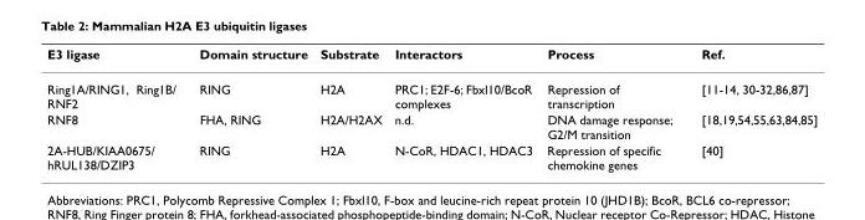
<table><thead><tr><td>E3 ligase</td><td>Domain structure</td><td>Substrate</td><td>Interactors</td><td>Process</td><td>Ref.</td></tr></thead><tbody><tr><td>Ring1A/RING1, Ring1B/ RNF2</td><td>RING</td><td>H2A</td><td>PRC1; E2F-6; Fbxl10/BcoR complexes</td><td>Repression of transcription</td><td>[11-14, 30-32,86,87]</td></tr><tr><td>RNF8</td><td>FHA, RING</td><td>H2A/H2AX</td><td>n.d.</td><td>DNA damage response; G2/M transition</td><td>[18,19,54,55,63,84,85]</td></tr><tr><td>2A-HUB/KIAA0675/ hRUL138/DZIP3</td><td>RING</td><td>H2A</td><td>N-CoR, HDAC1, HDAC3</td><td>Repression of specific chemokine genes</td><td>[40]</td></tr></tbody></table>